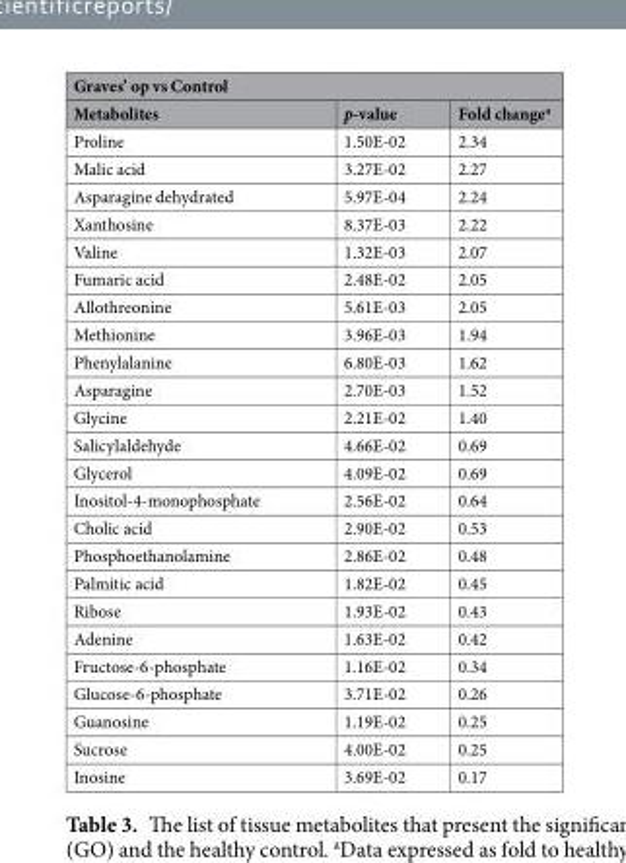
<table><thead><tr><td colspan="3">Graves’ op vs Control</td></tr><tr><td>Metabolites</td><td>p-value</td><td>Fold change<sup>a</sup></td></tr></thead><tbody><tr><td>Proline</td><td>1.50E-02</td><td>2.34</td></tr><tr><td>Malic acid</td><td>3.27E-02</td><td>2.27</td></tr><tr><td>Asparagine dehydrated</td><td>5.97E-04</td><td>2.24</td></tr><tr><td>Xanthosine</td><td>8.37E-03</td><td>2.22</td></tr><tr><td>Valine</td><td>1.32E-03</td><td>2.07</td></tr><tr><td>Fumaric acid</td><td>2.48E-02</td><td>2.05</td></tr><tr><td>Allothreonine</td><td>5.61E-03</td><td>2.05</td></tr><tr><td>Methionine</td><td>3.96E-03</td><td>1.94</td></tr><tr><td>Phenylalanine</td><td>6.80E-03</td><td>1.62</td></tr><tr><td>Asparagine</td><td>2.70E-03</td><td>1.52</td></tr><tr><td>Glycine</td><td>2.21E-02</td><td>1.40</td></tr><tr><td>Salicylaldehyde</td><td>4.66E-02</td><td>0.69</td></tr><tr><td>Glycerol</td><td>4.09E-02</td><td>0.69</td></tr><tr><td>Inositol-4-monophosphate</td><td>2.56E-02</td><td>0.64</td></tr><tr><td>Cholic acid</td><td>2.90E-02</td><td>0.53</td></tr><tr><td>Phosphoethanolamine</td><td>2.86E-02</td><td>0.48</td></tr><tr><td>Palmitic acid</td><td>1.82E-02</td><td>0.45</td></tr><tr><td>Ribose</td><td>1.93E-02</td><td>0.43</td></tr><tr><td>Adenine</td><td>1.63E-02</td><td>0.42</td></tr><tr><td>Fructose-6-phosphate</td><td>1.16E-02</td><td>0.34</td></tr><tr><td>Glucose-6-phosphate</td><td>3.71E-02</td><td>0.26</td></tr><tr><td>Guanosine</td><td>1.19E-02</td><td>0.25</td></tr><tr><td>Sucrose</td><td>4.00E-02</td><td>0.25</td></tr><tr><td>Inosine</td><td>3.69E-02</td><td>0.17</td></tr></tbody></table>